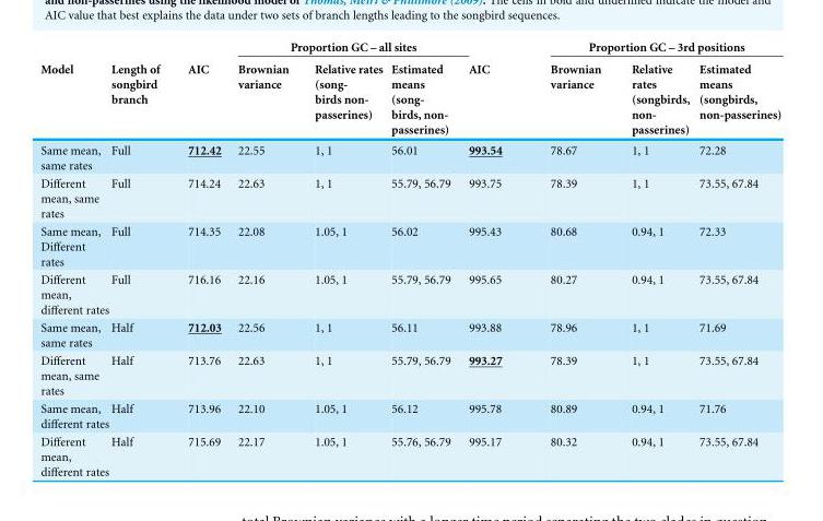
<table><thead><tr><td rowspan="2">Model</td><td rowspan="2">Length of songbird branch</td><td rowspan="2">AIC</td><td colspan="3">Proportion GC – all sites</td><td rowspan="2">AIC</td><td colspan="3">Proportion GC – 3rd positions</td></tr><tr><td>Brownian variance</td><td>Relative rates (song- birds non- passerines)</td><td>Estimated means (song- birds, non- passerines)</td><td>Brownian variance</td><td>Relative rates (songbirds, non- passerines)</td><td>Estimated means (songbirds, non-passerines)</td></tr></thead><tbody><tr><td>Same mean, same rates</td><td>Full</td><td>712.42</td><td>22.55</td><td>1, 1</td><td>56.01</td><td>993.54</td><td>78.67</td><td>1, 1</td><td>72.28</td></tr><tr><td>Different mean, same rates</td><td>Full</td><td>714.24</td><td>22.63</td><td>1, 1</td><td>55.79, 56.79</td><td>993.75</td><td>78.39</td><td>1, 1</td><td>73.55, 67.84</td></tr><tr><td>Same mean, Different rates</td><td>Full</td><td>714.35</td><td>22.08</td><td>1.05, 1</td><td>56.02</td><td>995.43</td><td>80.68</td><td>0.94, 1</td><td>72.33</td></tr><tr><td>Different mean, different rates</td><td>Full</td><td>716.16</td><td>22.16</td><td>1.05, 1</td><td>55.79, 56.79</td><td>995.65</td><td>80.27</td><td>0.94, 1</td><td>73.55, 67.84</td></tr><tr><td>Same mean, same rates</td><td>Half</td><td>712.03</td><td>22.56</td><td>1, 1</td><td>56.11</td><td>993.88</td><td>78.96</td><td>1, 1</td><td>71.69</td></tr><tr><td>Different mean, same rates</td><td>Half</td><td>713.76</td><td>22.63</td><td>1, 1</td><td>55.79, 56.79</td><td>993.27</td><td>78.39</td><td>1, 1</td><td>73.55, 67.84</td></tr><tr><td>Same mean, different rates</td><td>Half</td><td>713.96</td><td>22.10</td><td>1.05, 1</td><td>56.12</td><td>995.78</td><td>80.89</td><td>0.94, 1</td><td>71.76</td></tr><tr><td>Different mean, different rates</td><td>Half</td><td>715.69</td><td>22.17</td><td>1.05, 1</td><td>55.76, 56.79</td><td>995.17</td><td>80.32</td><td>0.94, 1</td><td>73.55, 67.84</td></tr></tbody></table>